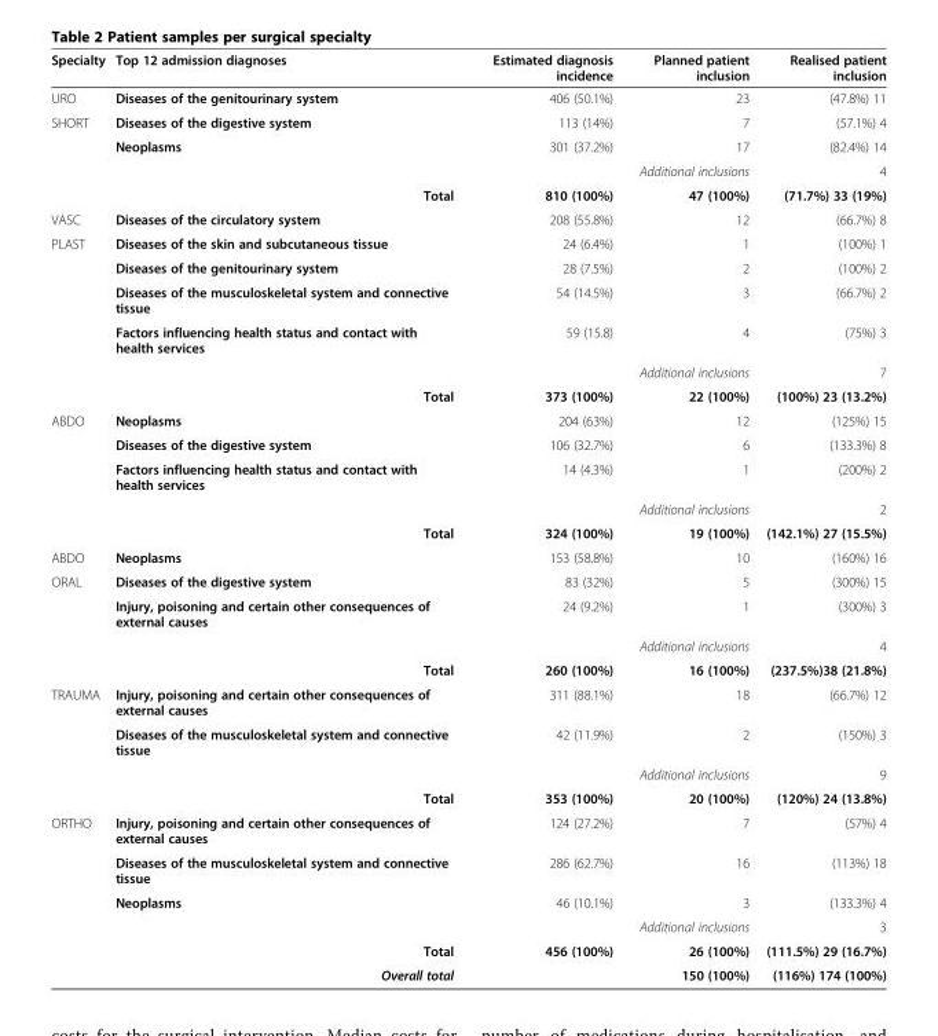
<table><thead><tr><td>Specialty</td><td>Top 12 admission diagnoses</td><td>Estimated diagnosis incidence</td><td>Planned patient inclusion</td><td>Realised patient inclusion</td></tr></thead><tbody><tr><td>URO</td><td>Diseases of the genitourinary system</td><td>406 (50.1%)</td><td>23</td><td>(47.8%) 11</td></tr><tr><td rowspan="4">SHORT</td><td>Diseases of the digestive system</td><td>113 (14%)</td><td>7</td><td>(57.1%) 4</td></tr><tr><td>Neoplasms</td><td>301 (37.2%)</td><td>17</td><td>(82.4%) 14</td></tr><tr><td colspan="3">Additional inclusions</td><td>4</td></tr><tr><td>Total</td><td>810 (100%)</td><td>47 (100%)</td><td>(71.7%) 33 (19%)</td></tr><tr><td>VASC</td><td>Diseases of the circulatory system</td><td>208 (55.8%)</td><td>12</td><td>(66.7%) 8</td></tr><tr><td rowspan="6">PLAST</td><td>Diseases of the skin and subcutaneous tissue</td><td>24 (6.4%)</td><td>1</td><td>(100%) 1</td></tr><tr><td>Diseases of the genitourinary system</td><td>28 (7.5%)</td><td>2</td><td>(100%) 2</td></tr><tr><td>Diseases of the musculoskeletal system and connective tissue</td><td>54 (14.5%)</td><td>3</td><td>(66.7%) 2</td></tr><tr><td>Factors influencing health status and contact with health services</td><td>59 (15.8)</td><td>4</td><td>(75%) 3</td></tr><tr><td colspan="3">Additional inclusions</td><td>7</td></tr><tr><td>Total</td><td>373 (100%)</td><td>22 (100%)</td><td>(100%) 23 (13.2%)</td></tr><tr><td rowspan="5">ABDO</td><td>Neoplasms</td><td>204 (63%)</td><td>12</td><td>(125%) 15</td></tr><tr><td>Diseases of the digestive system</td><td>106 (32.7%)</td><td>6</td><td>(133.3%) 8</td></tr><tr><td>Factors influencing health status and contact with health services</td><td>14 (4.3%)</td><td>1</td><td>(200%) 2</td></tr><tr><td colspan="3">Additional inclusions</td><td>2</td></tr><tr><td>Total</td><td>324 (100%)</td><td>19 (100%)</td><td>(142.1%) 27 (15.5%)</td></tr><tr><td>ABDO</td><td>Neoplasms</td><td>153 (58.8%)</td><td>10</td><td>(160%) 16</td></tr><tr><td rowspan="4">ORAL</td><td>Diseases of the digestive system</td><td>83 (32%)</td><td>5</td><td>(300%) 15</td></tr><tr><td>Injury, poisoning and certain other consequences of external causes</td><td>24 (9.2%)</td><td>1</td><td>(300%) 3</td></tr><tr><td colspan="3">Additional inclusions</td><td>4</td></tr><tr><td>Total</td><td>260 (100%)</td><td>16 (100%)</td><td>(237.5%)38 (21.8%)</td></tr><tr><td rowspan="4">TRAUMA</td><td>Injury, poisoning and certain other consequences of external causes</td><td>311 (88.1%)</td><td>18</td><td>(66.7%) 12</td></tr><tr><td>Diseases of the musculoskeletal system and connective tissue</td><td>42 (11.9%)</td><td>2</td><td>(150%) 3</td></tr><tr><td colspan="3">Additional inclusions</td><td>9</td></tr><tr><td>Total</td><td>353 (100%)</td><td>20 (100%)</td><td>(120%) 24 (13.8%)</td></tr><tr><td rowspan="6">ORTHO</td><td>Injury, poisoning and certain other consequences of external causes</td><td>124 (27.2%)</td><td>7</td><td>(57%) 4</td></tr><tr><td>Diseases of the musculoskeletal system and connective tissue</td><td>286 (62.7%)</td><td>16</td><td>(113%) 18</td></tr><tr><td>Neoplasms</td><td>46 (10.1%)</td><td>3</td><td>(133.3%) 4</td></tr><tr><td colspan="3">Additional inclusions</td><td>3</td></tr><tr><td>Total</td><td>456 (100%)</td><td>26 (100%)</td><td>(111.5%) 29 (16.7%)</td></tr><tr><td>Overall total</td><td></td><td>150 (100%)</td><td>(116%) 174 (100%)</td></tr></tbody></table>